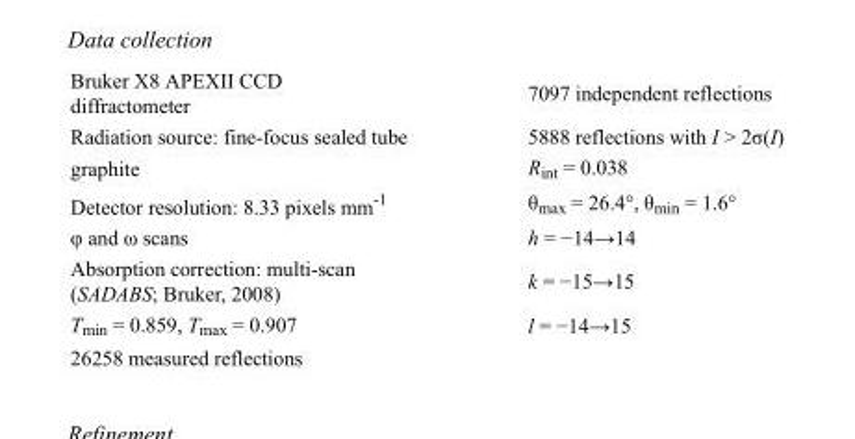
<table><tbody><tr><td>Bruker X8 APEXII CCD diffractometer</td><td>7097 independent reflections</td></tr><tr><td>Radiation source: fine-focus sealed tube</td><td>5888 reflections with I &gt; 2σ(I)</td></tr><tr><td>graphite</td><td>R<sub>int</sub> = 0.038</td></tr><tr><td>Detector resolution: 8.33 pixels mm<sup>-1</sup></td><td>θ<sub>max</sub> = 26.4°, θ<sub>min</sub> = 1.6°</td></tr><tr><td>φ and ω scans</td><td>h = −14→14</td></tr><tr><td>Absorption correction: multi-scan (SADABS; Bruker, 2008)</td><td>k = −15→15</td></tr><tr><td>T<sub>min</sub> = 0.859, T<sub>max</sub> = 0.907</td><td>l = −14→15</td></tr><tr><td>26258 measured reflections</td><td></td></tr></tbody></table>